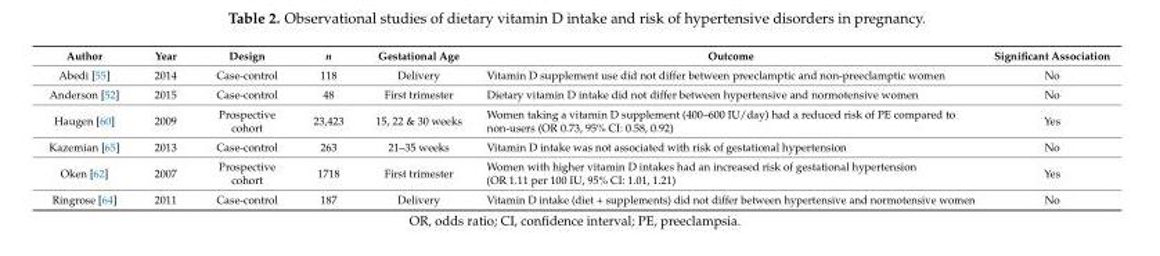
<table><thead><tr><td>Author</td><td>Year</td><td>Design</td><td>n</td><td>Gestational Age</td><td>Outcome</td><td>Significant Association</td></tr></thead><tbody><tr><td>Abedi [55]</td><td>2014</td><td>Case-control</td><td>118</td><td>Delivery</td><td>Vitamin D supplement use did not differ between preeclamptic and non-preeclamptic women</td><td>No</td></tr><tr><td>Anderson [52]</td><td>2015</td><td>Case-control</td><td>48</td><td>First trimester</td><td>Dietary vitamin D intake did not differ between hypertensive and normotensive women</td><td>No</td></tr><tr><td>Haugen [60]</td><td>2009</td><td>Prospective cohort</td><td>23,423</td><td>15, 22 &amp; 30 weeks</td><td>Women taking a vitamin D supplement (400–600 IU/day) had a reduced risk of PE compared to non-users (OR 0.73, 95% CI: 0.58, 0.92)</td><td>Yes</td></tr><tr><td>Kazemian [65]</td><td>2013</td><td>Case-control</td><td>263</td><td>21–35 weeks</td><td>Vitamin D intake was not associated with risk of gestational hypertension</td><td>No</td></tr><tr><td>Oken [62]</td><td>2007</td><td>Prospective cohort</td><td>1718</td><td>First trimester</td><td>Women with higher vitamin D intakes had an increased risk of gestational hypertension (OR 1.11 per 100 IU, 95% CI: 1.01, 1.21)</td><td>Yes</td></tr><tr><td>Ringrose [64]</td><td>2011</td><td>Case-control</td><td>187</td><td>Delivery</td><td>Vitamin D intake (diet + supplements) did not differ between hypertensive and normotensive women</td><td>No</td></tr></tbody></table>